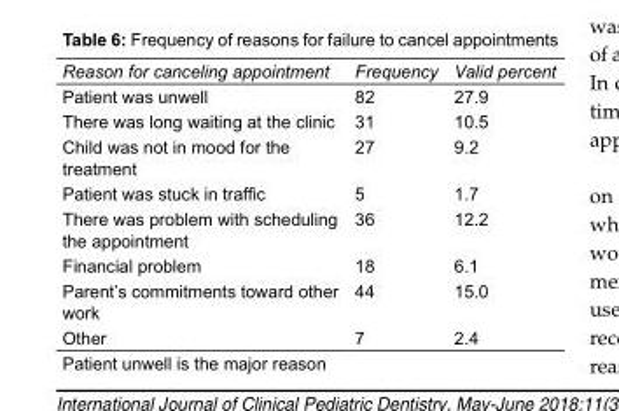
<table><tbody><tr><td>Reason for canceling appointment</td><td>Frequency</td><td>Valid percent</td></tr><tr><td>Patient was unwell</td><td>82</td><td>27.9</td></tr><tr><td>There was long waiting at the clinic</td><td>31</td><td>10.5</td></tr><tr><td>Child was not in mood for the treatment</td><td>27</td><td>9.2</td></tr><tr><td>Patient was stuck in traffic</td><td>5</td><td>1.7</td></tr><tr><td>There was problem with scheduling the appointment</td><td>36</td><td>12.2</td></tr><tr><td>Financial problem</td><td>18</td><td>6.1</td></tr><tr><td>Parent’s commitments toward other work</td><td>44</td><td>15.0</td></tr><tr><td>Other</td><td>7</td><td>2.4</td></tr></tbody></table>